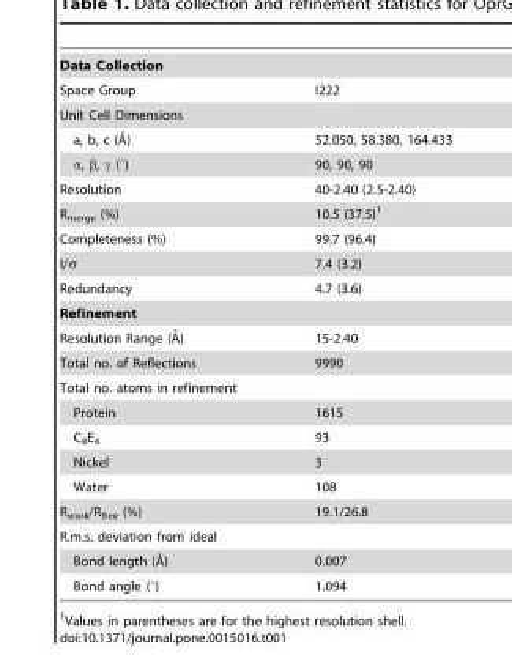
<table><tbody><tr><td colspan="2">Data Collection</td></tr><tr><td>Space Group</td><td>I222</td></tr><tr><td colspan="2">Unit Cell Dimensions</td></tr><tr><td>a, b, c (A˚)</td><td>52.050, 58.380, 164.433</td></tr><tr><td>α, β, γ (°)</td><td>90, 90, 90</td></tr><tr><td>Resolution</td><td>40-2.40 (2.5-2.40)</td></tr><tr><td>R<sub>merge</sub> (%)</td><td>10.5 (37.5)<sup>1</sup></td></tr><tr><td>Completeness (%)</td><td>99.7 (96.4)</td></tr><tr><td>I/σ</td><td>7.4 (3.2)</td></tr><tr><td>Redundancy</td><td>4.7 (3.6)</td></tr><tr><td colspan="2">Refinement</td></tr><tr><td>Resolution Range (A˚)</td><td>15-2.40</td></tr><tr><td>Total no. of Reflections</td><td>9990</td></tr><tr><td colspan="2">Total no. atoms in refinement</td></tr><tr><td>Protein</td><td>1615</td></tr><tr><td>C<sub>8</sub>E<sub>4</sub></td><td>93</td></tr><tr><td>Nickel</td><td>3</td></tr><tr><td>Water</td><td>108</td></tr><tr><td>R<sub>work</sub>/R<sub>free</sub> (%)</td><td>19.1/26.8</td></tr><tr><td colspan="2">R.m.s. deviation from ideal</td></tr><tr><td>Bond length (A˚)</td><td>0.007</td></tr><tr><td>Bond angle (°)</td><td>1.094</td></tr></tbody></table>